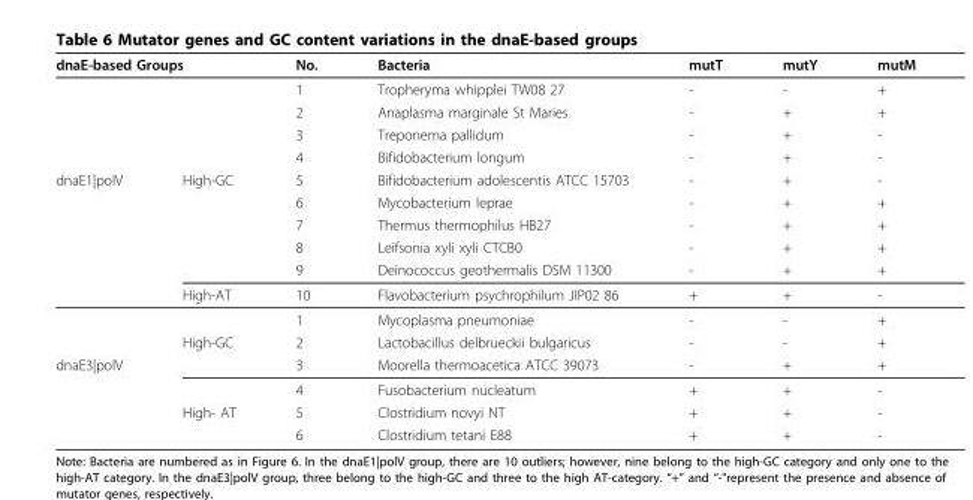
<table><thead><tr><td colspan="2">dnaE-based Groups</td><td rowspan="2">No. 1</td><td rowspan="2">Bacteria Tropheryma whipplei TW08 27</td><td rowspan="2">mutT -</td><td rowspan="2">mutY -</td><td rowspan="2">mutM +</td></tr><tr><td></td><td></td></tr></thead><tbody><tr><td></td><td></td><td>2</td><td>Anaplasma marginale St Maries</td><td>-</td><td>+</td><td>+</td></tr><tr><td></td><td></td><td>3</td><td>Treponema pallidum</td><td>-</td><td>+</td><td>-</td></tr><tr><td></td><td></td><td>4</td><td>Bifidobacterium longum</td><td>-</td><td>+</td><td>-</td></tr><tr><td rowspan="8">dnaE1|polV</td><td>High-GC</td><td>5</td><td>Bifidobacterium adolescentis ATCC 15703</td><td>-</td><td>+</td><td>-</td></tr><tr><td></td><td>6</td><td>Mycobacterium leprae</td><td>-</td><td>+</td><td>+</td></tr><tr><td></td><td>7</td><td>Thermus thermophilus HB27</td><td>-</td><td>+</td><td>+</td></tr><tr><td></td><td>8</td><td>Leifsonia xyli xyli CTCB0</td><td>-</td><td>+</td><td>+</td></tr><tr><td></td><td>9</td><td>Deinococcus geothermalis DSM 11300</td><td>-</td><td>+</td><td>+</td></tr><tr><td>High-AT</td><td>10</td><td>Flavobacterium psychrophilum JIP02 86</td><td>+</td><td>+</td><td>-</td></tr><tr><td></td><td>1</td><td>Mycoplasma pneumoniae</td><td>-</td><td>-</td><td>+</td></tr><tr><td>High-GC</td><td>2</td><td>Lactobacillus delbrueckii bulgaricus</td><td>-</td><td>-</td><td>+</td></tr><tr><td rowspan="4">dnaE3|polV</td><td></td><td>3</td><td>Moorella thermoacetica ATCC 39073</td><td>-</td><td>+</td><td>+</td></tr><tr><td></td><td>4</td><td>Fusobacterium nucleatum</td><td>+</td><td>+</td><td>-</td></tr><tr><td>High- AT</td><td>5</td><td>Clostridium novyi NT</td><td>+</td><td>+</td><td>-</td></tr><tr><td></td><td>6</td><td>Clostridium tetani E88</td><td>+</td><td>+</td><td>-</td></tr></tbody></table>